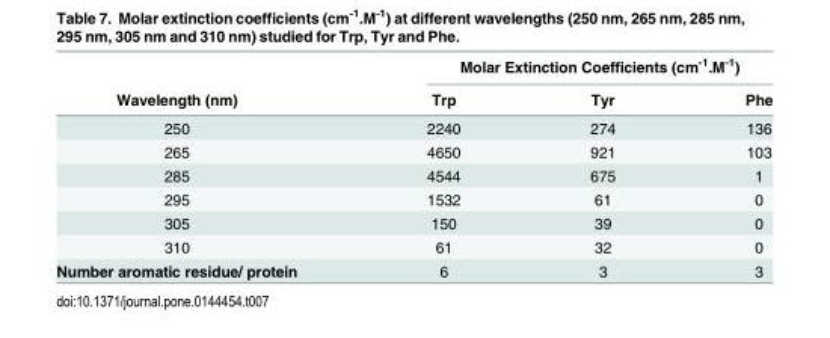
<table><thead><tr><td rowspan="2">Wavelength (nm)</td><td colspan="3">Molar Extinction Coefficients (cm<sup>-1</sup>.M<sup>-1</sup>)</td></tr><tr><td>Trp</td><td>Tyr</td><td>Phe</td></tr></thead><tbody><tr><td>250</td><td>2240</td><td>274</td><td>136</td></tr><tr><td>265</td><td>4650</td><td>921</td><td>103</td></tr><tr><td>285</td><td>4544</td><td>675</td><td>1</td></tr><tr><td>295</td><td>1532</td><td>61</td><td>0</td></tr><tr><td>305</td><td>150</td><td>39</td><td>0</td></tr><tr><td>310</td><td>61</td><td>32</td><td>0</td></tr><tr><td>Number aromatic residue/ protein</td><td>6</td><td>3</td><td>3</td></tr></tbody></table>